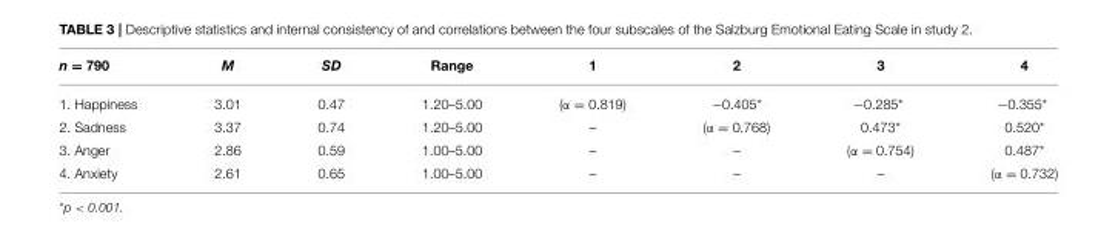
<table><thead><tr><td>n = 790</td><td>M</td><td>SD</td><td>Range</td><td>1</td><td>2</td><td>3</td><td>4</td></tr></thead><tbody><tr><td>1. Happiness</td><td>3.01</td><td>0.47</td><td>1.20–5.00</td><td>(α = 0.819)</td><td>−0.405*</td><td>−0.285*</td><td>−0.355*</td></tr><tr><td>2. Sadness</td><td>3.37</td><td>0.74</td><td>1.20–5.00</td><td>–</td><td>(α = 0.768)</td><td>0.473*</td><td>0.520*</td></tr><tr><td>3. Anger</td><td>2.86</td><td>0.59</td><td>1.00–5.00</td><td>–</td><td>–</td><td>(α = 0.754)</td><td>0.487*</td></tr><tr><td>4. Anxiety</td><td>2.61</td><td>0.65</td><td>1.00–5.00</td><td>–</td><td>–</td><td>–</td><td>(α = 0.732)</td></tr></tbody></table>